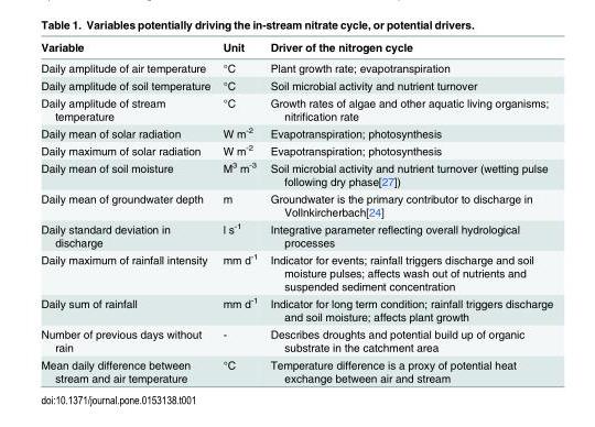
<table><thead><tr><td>Variable</td><td>Unit</td><td>Driver of the nitrogen cycle</td></tr></thead><tbody><tr><td>Daily amplitude of air temperature</td><td>°C</td><td>Plant growth rate; evapotranspiration</td></tr><tr><td>Daily amplitude of soil temperature</td><td>°C</td><td>Soil microbial activity and nutrient turnover</td></tr><tr><td>Daily amplitude of stream temperature</td><td>°C</td><td>Growth rates of algae and other aquatic living organisms; nitrification rate</td></tr><tr><td>Daily mean of solar radiation</td><td>W m<sup>-2</sup></td><td>Evapotranspiration; photosynthesis</td></tr><tr><td>Daily maximum of solar radiation</td><td>W m<sup>-2</sup></td><td>Evapotranspiration; photosynthesis</td></tr><tr><td>Daily mean of soil moisture</td><td>M<sup>3</sup> m<sup>-3</sup></td><td>Soil microbial activity and nutrient turnover (wetting pulse following dry phase[27])</td></tr><tr><td>Daily mean of groundwater depth</td><td>m</td><td>Groundwater is the primary contributor to discharge in Vollnkircherbach[24]</td></tr><tr><td>Daily standard deviation in discharge</td><td>l s<sup>-1</sup></td><td>Integrative parameter reflecting overall hydrological processes</td></tr><tr><td>Daily maximum of rainfall intensity</td><td>mm d<sup>-1</sup></td><td>Indicator for events; rainfall triggers discharge and soil moisture pulses; affects wash out of nutrients and suspended sediment concentration</td></tr><tr><td>Daily sum of rainfall</td><td>mm d<sup>-1</sup></td><td>Indicator for long term condition; rainfall triggers discharge and soil moisture; affects plant growth</td></tr><tr><td>Number of previous days without rain</td><td>-</td><td>Describes droughts and potential build up of organic substrate in the catchment area</td></tr><tr><td>Mean daily difference between stream and air temperature</td><td>°C</td><td>Temperature difference is a proxy of potential heat exchange between air and stream</td></tr></tbody></table>